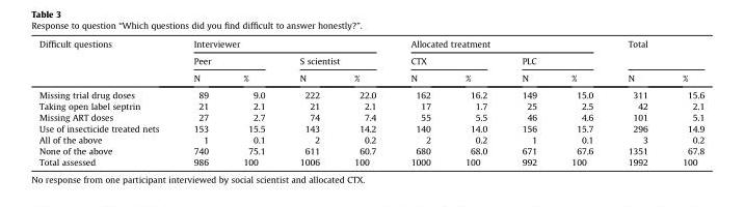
<table><thead><tr><td rowspan="3">Difficult questions</td><td colspan="4">Interviewer</td><td colspan="4">Allocated treatment</td><td rowspan="2" colspan="2">Total</td></tr><tr><td colspan="2">Peer</td><td colspan="2">S scientist</td><td colspan="2">CTX</td><td colspan="2">PLC</td></tr><tr><td>N</td><td>%</td><td>N</td><td>%</td><td>N</td><td>%</td><td>N</td><td>%</td><td>N</td><td>%</td></tr></thead><tbody><tr><td>Missing trial drug doses</td><td>89</td><td>9.0</td><td>222</td><td>22.0</td><td>162</td><td>16.2</td><td>149</td><td>15.0</td><td>311</td><td>15.6</td></tr><tr><td>Taking open label septrin</td><td>21</td><td>2.1</td><td>21</td><td>2.1</td><td>17</td><td>1.7</td><td>25</td><td>2.5</td><td>42</td><td>2.1</td></tr><tr><td>Missing ART doses</td><td>27</td><td>2.7</td><td>74</td><td>7.4</td><td>55</td><td>5.5</td><td>46</td><td>4.6</td><td>101</td><td>5.1</td></tr><tr><td>Use of insecticide treated nets</td><td>153</td><td>15.5</td><td>143</td><td>14.2</td><td>140</td><td>14.0</td><td>156</td><td>15.7</td><td>296</td><td>14.9</td></tr><tr><td>All of the above</td><td>1</td><td>0.1</td><td>2</td><td>0.2</td><td>2</td><td>0.2</td><td>1</td><td>0.1</td><td>3</td><td>0.2</td></tr><tr><td>None of the above</td><td>740</td><td>75.1</td><td>611</td><td>60.7</td><td>680</td><td>68.0</td><td>671</td><td>67.6</td><td>1351</td><td>67.8</td></tr><tr><td>Total assessed</td><td>986</td><td>100</td><td>1006</td><td>100</td><td>1000</td><td>100</td><td>992</td><td>100</td><td>1992</td><td>100</td></tr></tbody></table>